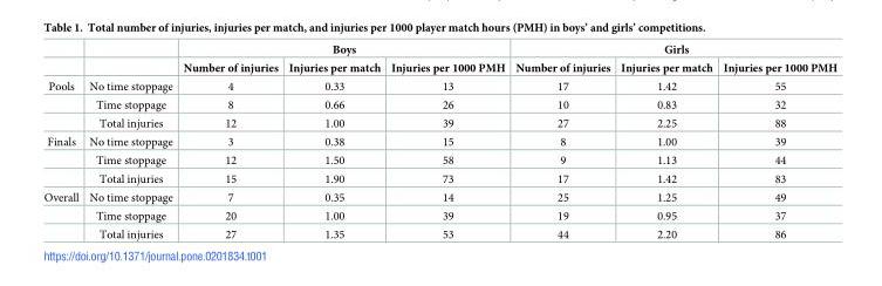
<table><thead><tr><td rowspan="2"></td><td rowspan="2"></td><td colspan="3">Boys</td><td colspan="3">Girls</td></tr><tr><td>Number of injuries</td><td>Injuries per match</td><td>Injuries per 1000 PMH</td><td>Number of injuries</td><td>Injuries per match</td><td>Injuries per 1000 PMH</td></tr></thead><tbody><tr><td rowspan="3">Pools</td><td>No time stoppage</td><td>4</td><td>0.33</td><td>13</td><td>17</td><td>1.42</td><td>55</td></tr><tr><td>Time stoppage</td><td>8</td><td>0.66</td><td>26</td><td>10</td><td>0.83</td><td>32</td></tr><tr><td>Total injuries</td><td>12</td><td>1.00</td><td>39</td><td>27</td><td>2.25</td><td>88</td></tr><tr><td rowspan="3">Finals</td><td>No time stoppage</td><td>3</td><td>0.38</td><td>15</td><td>8</td><td>1.00</td><td>39</td></tr><tr><td>Time stoppage</td><td>12</td><td>1.50</td><td>58</td><td>9</td><td>1.13</td><td>44</td></tr><tr><td>Total injuries</td><td>15</td><td>1.90</td><td>73</td><td>17</td><td>1.42</td><td>83</td></tr><tr><td rowspan="3">Overall</td><td>No time stoppage</td><td>7</td><td>0.35</td><td>14</td><td>25</td><td>1.25</td><td>49</td></tr><tr><td>Time stoppage</td><td>20</td><td>1.00</td><td>39</td><td>19</td><td>0.95</td><td>37</td></tr><tr><td>Total injuries</td><td>27</td><td>1.35</td><td>53</td><td>44</td><td>2.20</td><td>86</td></tr></tbody></table>